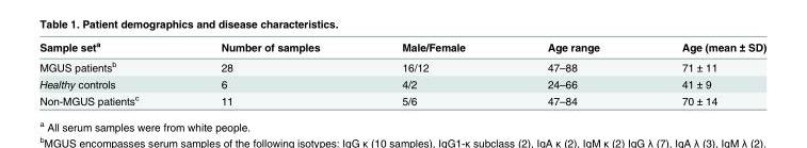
<table><thead><tr><td>Sample set<sup>a</sup></td><td>Number of samples</td><td>Male/Female</td><td>Age range</td><td>Age (mean ± SD)</td></tr></thead><tbody><tr><td>MGUS patients<sup>b</sup></td><td>28</td><td>16/12</td><td>47–88</td><td>71 ± 11</td></tr><tr><td>Healthy controls</td><td>6</td><td>4/2</td><td>24–66</td><td>41 ± 9</td></tr><tr><td>Non-MGUS patients<sup>c</sup></td><td>11</td><td>5/6</td><td>47–84</td><td>70 ± 14</td></tr></tbody></table>